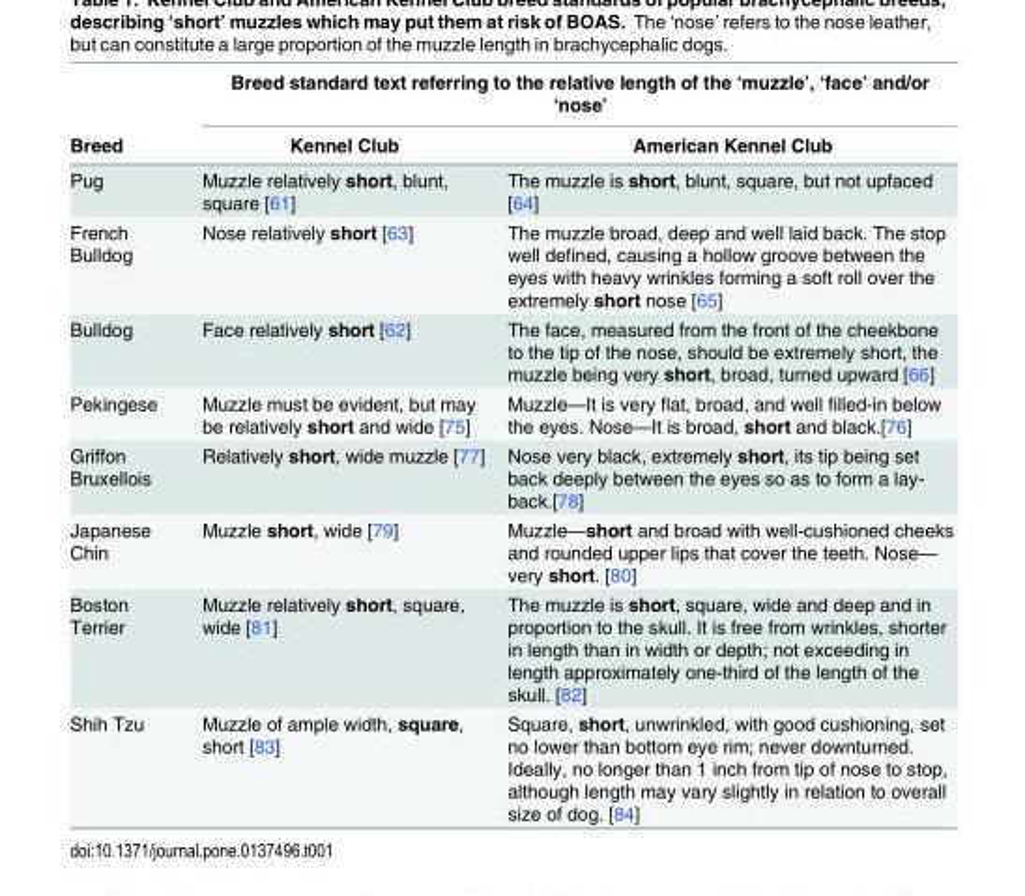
<table><thead><tr><td rowspan="2">Breed</td><td colspan="2">Breed standard text referring to the relative length of the ‘muzzle’, ‘face’ and/or ‘nose’</td></tr><tr><td>Kennel Club</td><td>American Kennel Club</td></tr></thead><tbody><tr><td>Pug</td><td>Muzzle relatively short, blunt, square [61]</td><td>The muzzle is short, blunt, square, but not upfaced [64]</td></tr><tr><td>French Bulldog</td><td>Nose relatively short [63]</td><td>The muzzle broad, deep and well laid back. The stop well defined, causing a hollow groove between the eyes with heavy wrinkles forming a soft roll over the extremely short nose [65]</td></tr><tr><td>Bulldog</td><td>Face relatively short [62]</td><td>The face, measured from the front of the cheekbone to the tip of the nose, should be extremely short, the muzzle being very short, broad, turned upward [66]</td></tr><tr><td>Pekingese</td><td>Muzzle must be evident, but may be relatively short and wide [75]</td><td>Muzzle—It is very flat, broad, and well filled-in below the eyes. Nose—It is broad, short and black.[76]</td></tr><tr><td>Griffon Bruxellois</td><td>Relatively short, wide muzzle [77]</td><td>Nose very black, extremely short, its tip being set back deeply between the eyes so as to form a lay- back.[78]</td></tr><tr><td>Japanese Chin</td><td>Muzzle short, wide [79]</td><td>Muzzle—short and broad with well-cushioned cheeks and rounded upper lips that cover the teeth. Nose— very short. [80]</td></tr><tr><td>Boston Terrier</td><td>Muzzle relatively short, square, wide [81]</td><td>The muzzle is short, square, wide and deep and in proportion to the skull. It is free from wrinkles, shorter in length than in width or depth; not exceeding in length approximately one-third of the length of the skull. [82]</td></tr><tr><td>Shih Tzu</td><td>Muzzle of ample width, square, short [83]</td><td>Square, short, unwrinkled, with good cushioning, set no lower than bottom eye rim; never downturned. Ideally, no longer than 1 inch from tip of nose to stop, although length may vary slightly in relation to overall size of dog. [84]</td></tr></tbody></table>